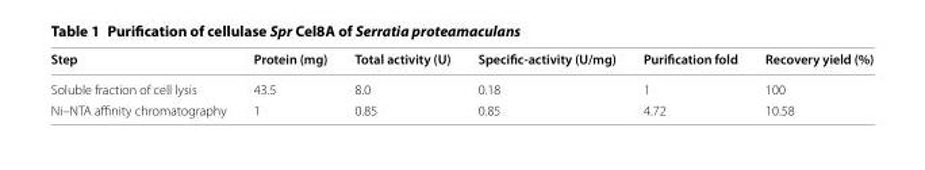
<table><thead><tr><td>Step</td><td>Protein (mg)</td><td>Total activity (U)</td><td>Specific‑activity (U/mg)</td><td>Purification fold</td><td>Recovery yield (%)</td></tr></thead><tbody><tr><td>Soluble fraction of cell lysis</td><td>43.5</td><td>8.0</td><td>0.18</td><td>1</td><td>100</td></tr><tr><td>Ni–NTA affinity chromatography</td><td>1</td><td>0.85</td><td>0.85</td><td>4.72</td><td>10.58</td></tr></tbody></table>